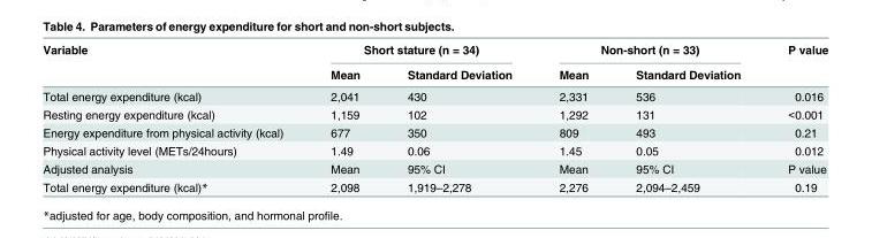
<table><thead><tr><td rowspan="2">Variable</td><td colspan="2">Short stature (n = 34)</td><td colspan="2">Non-short (n = 33)</td><td rowspan="2">P value</td></tr><tr><td>Mean</td><td>Standard Deviation</td><td>Mean</td><td>Standard Deviation</td></tr></thead><tbody><tr><td>Total energy expenditure (kcal)</td><td>2,041</td><td>430</td><td>2,331</td><td>536</td><td>0.016</td></tr><tr><td>Resting energy expenditure (kcal)</td><td>1,159</td><td>102</td><td>1,292</td><td>131</td><td>&lt;0.001</td></tr><tr><td>Energy expenditure from physical activity (kcal)</td><td>677</td><td>350</td><td>809</td><td>493</td><td>0.21</td></tr><tr><td>Physical activity level (METs/24hours)</td><td>1.49</td><td>0.06</td><td>1.45</td><td>0.05</td><td>0.012</td></tr><tr><td>Adjusted analysis</td><td>Mean</td><td>95% CI</td><td>Mean</td><td>95% CI</td><td>P value</td></tr><tr><td>Total energy expenditure (kcal)*</td><td>2,098</td><td>1,919–2,278</td><td>2,276</td><td>2,094–2,459</td><td>0.19</td></tr></tbody></table>